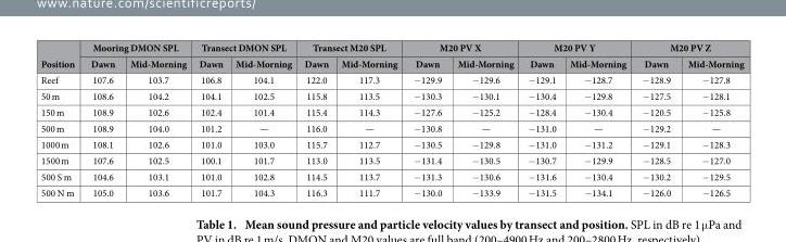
<table><thead><tr><td rowspan="2">Position</td><td colspan="2">Mooring DMON SPL</td><td colspan="2">Transect DMON SPL</td><td colspan="2">Transect M20 SPL</td><td colspan="2">M20 PV X</td><td colspan="2">M20 PV Y</td><td colspan="2">M20 PV Z</td></tr><tr><td>Dawn</td><td>Mid-Morning</td><td>Dawn</td><td>Mid-Morning</td><td>Dawn</td><td>Mid-Morning</td><td>Dawn</td><td>Mid-Morning</td><td>Dawn</td><td>Mid-Morning</td><td>Dawn</td><td>Mid-Morning</td></tr></thead><tbody><tr><td>Reef</td><td>107.6</td><td>103.7</td><td>106.8</td><td>104.1</td><td>122.0</td><td>117.3</td><td>− 129.9</td><td>− 129.6</td><td>− 129.1</td><td>− 128.7</td><td>− 128.9</td><td>− 127.8</td></tr><tr><td>50 m</td><td>108.6</td><td>104.2</td><td>104.1</td><td>102.5</td><td>115.8</td><td>113.5</td><td>− 130.3</td><td>− 130.1</td><td>− 130.4</td><td>− 129.8</td><td>− 127.5</td><td>− 128.1</td></tr><tr><td>150 m</td><td>108.9</td><td>102.6</td><td>102.4</td><td>101.4</td><td>115.4</td><td>114.3</td><td>− 127.6</td><td>− 125.2</td><td>− 128.4</td><td>− 130.4</td><td>− 120.5</td><td>− 125.8</td></tr><tr><td>500 m</td><td>108.9</td><td>104.0</td><td>101.2</td><td>—</td><td>116.0</td><td>—</td><td>− 130.8</td><td>—</td><td>− 131.0</td><td>—</td><td>− 129.2</td><td>—</td></tr><tr><td>1000 m</td><td>108.1</td><td>102.6</td><td>101.0</td><td>103.0</td><td>115.7</td><td>112.7</td><td>− 130.5</td><td>− 129.8</td><td>− 131.0</td><td>− 131.2</td><td>− 129.1</td><td>− 128.3</td></tr><tr><td>1500 m</td><td>107.6</td><td>102.5</td><td>100.1</td><td>101.7</td><td>113.0</td><td>113.5</td><td>− 131.4</td><td>− 130.5</td><td>− 130.7</td><td>− 129.9</td><td>− 128.5</td><td>− 127.0</td></tr><tr><td>500 S m</td><td>104.6</td><td>103.1</td><td>101.0</td><td>102.8</td><td>114.5</td><td>113.7</td><td>− 131.3</td><td>− 130.6</td><td>− 131.6</td><td>− 130.4</td><td>− 130.2</td><td>− 129.5</td></tr><tr><td>500 N m</td><td>105.0</td><td>103.6</td><td>101.7</td><td>104.3</td><td>116.3</td><td>111.7</td><td>− 130.0</td><td>− 133.9</td><td>− 131.5</td><td>− 134.1</td><td>− 126.0</td><td>− 126.5</td></tr></tbody></table>